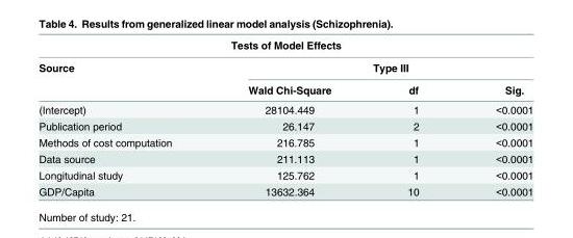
<table><thead><tr><td colspan="4">Tests of Model Effects</td></tr><tr><td rowspan="2">Source</td><td colspan="3">Type III</td></tr><tr><td>Wald Chi-Square</td><td>df</td><td>Sig.</td></tr></thead><tbody><tr><td>(Intercept)</td><td>28104.449</td><td>1</td><td>&lt;0.0001</td></tr><tr><td>Publication period</td><td>26.147</td><td>2</td><td>&lt;0.0001</td></tr><tr><td>Methods of cost computation</td><td>216.785</td><td>1</td><td>&lt;0.0001</td></tr><tr><td>Data source</td><td>211.113</td><td>1</td><td>&lt;0.0001</td></tr><tr><td>Longitudinal study</td><td>125.762</td><td>1</td><td>&lt;0.0001</td></tr><tr><td>GDP/Capita</td><td>13632.364</td><td>10</td><td>&lt;0.0001</td></tr></tbody></table>